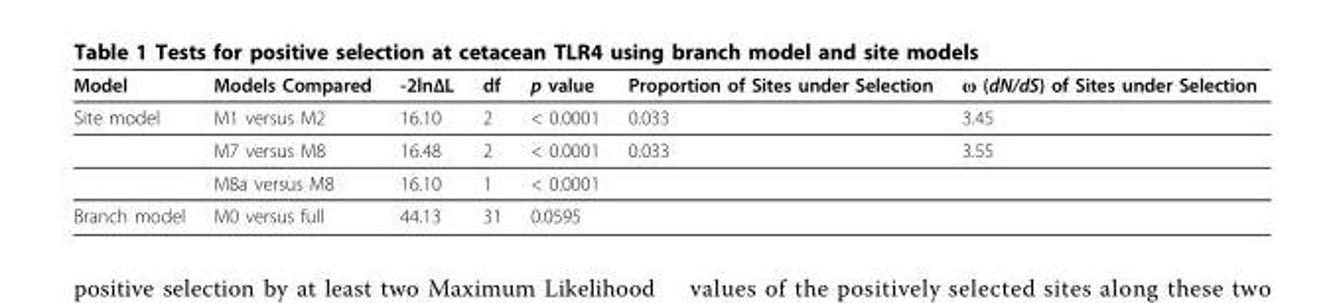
<table><thead><tr><td>Model</td><td>Models Compared</td><td>-2lnΔL</td><td>df</td><td>p value</td><td>Proportion of Sites under Selection</td><td>ω (dN/dS) of Sites under Selection</td></tr></thead><tbody><tr><td rowspan="3">Site model</td><td>M1 versus M2</td><td>16.10</td><td>2</td><td>&lt; 0.0001</td><td>0.033</td><td>3.45</td></tr><tr><td>M7 versus M8</td><td>16.48</td><td>2</td><td>&lt; 0.0001</td><td>0.033</td><td>3.55</td></tr><tr><td>M8a versus M8</td><td>16.10</td><td>1</td><td>&lt; 0.0001</td><td></td><td></td></tr><tr><td>Branch model</td><td>M0 versus full</td><td>44.13</td><td>31</td><td>0.0595</td><td></td><td></td></tr></tbody></table>